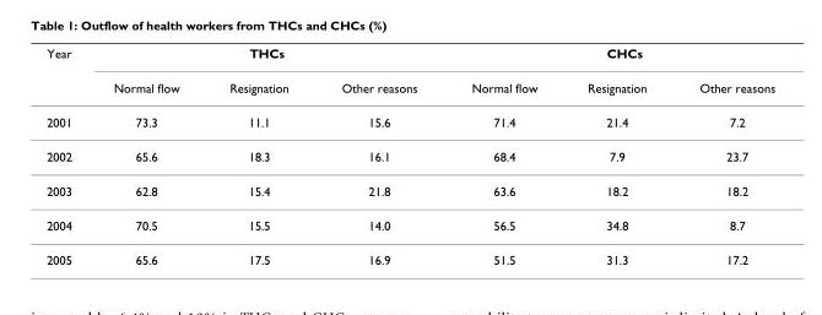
<table><thead><tr><td rowspan="2">Year</td><td colspan="3">THCs</td><td colspan="3">CHCs</td></tr><tr><td>Normal flow</td><td>Resignation</td><td>Other reasons</td><td>Normal flow</td><td>Resignation</td><td>Other reasons</td></tr></thead><tbody><tr><td>2001</td><td>73.3</td><td>11.1</td><td>15.6</td><td>71.4</td><td>21.4</td><td>7.2</td></tr><tr><td>2002</td><td>65.6</td><td>18.3</td><td>16.1</td><td>68.4</td><td>7.9</td><td>23.7</td></tr><tr><td>2003</td><td>62.8</td><td>15.4</td><td>21.8</td><td>63.6</td><td>18.2</td><td>18.2</td></tr><tr><td>2004</td><td>70.5</td><td>15.5</td><td>14.0</td><td>56.5</td><td>34.8</td><td>8.7</td></tr><tr><td>2005</td><td>65.6</td><td>17.5</td><td>16.9</td><td>51.5</td><td>31.3</td><td>17.2</td></tr></tbody></table>